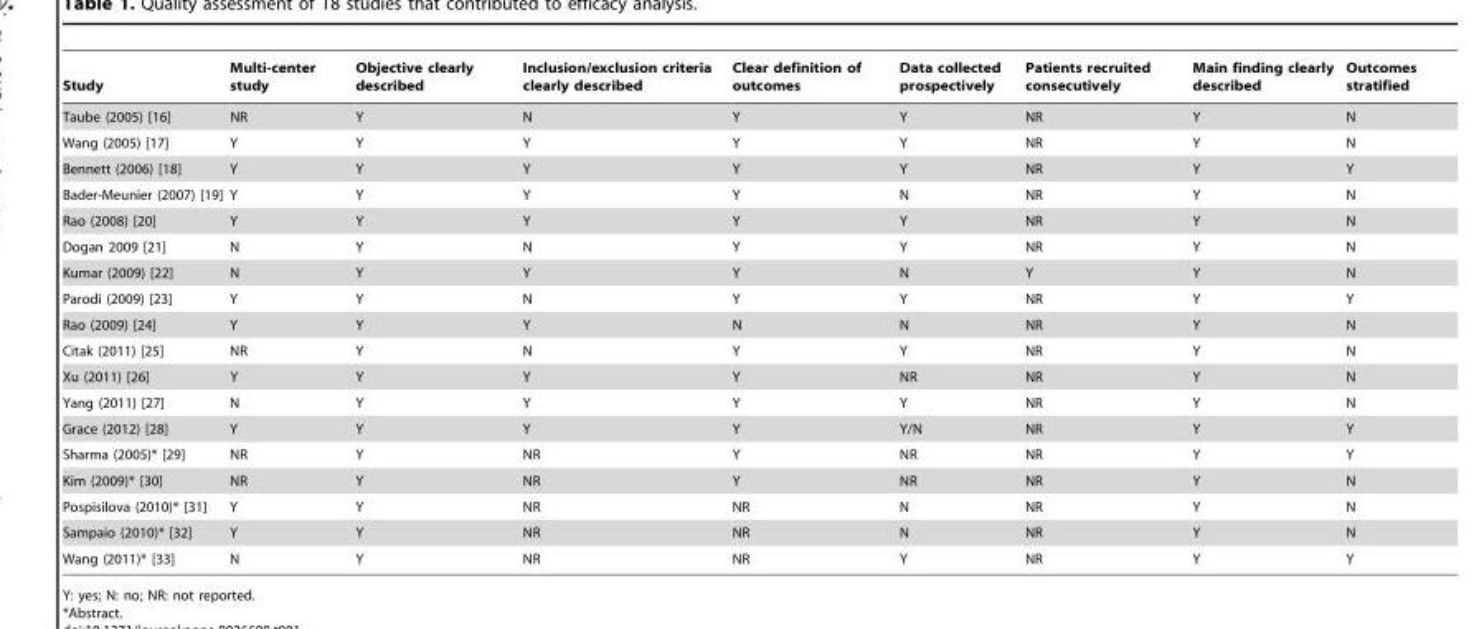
<table><thead><tr><td>Study</td><td>Multi-center study</td><td>Objective clearly described</td><td>Inclusion/exclusion criteria clearly described</td><td>Clear definition of outcomes</td><td>Data collected prospectively</td><td>Patients recruited consecutively</td><td>Main finding clearly described</td><td>Outcomes stratified</td></tr></thead><tbody><tr><td>Taube (2005) [16]</td><td>NR</td><td>Y</td><td>N</td><td>Y</td><td>Y</td><td>NR</td><td>Y</td><td>N</td></tr><tr><td>Wang (2005) [17]</td><td>Y</td><td>Y</td><td>Y</td><td>Y</td><td>Y</td><td>NR</td><td>Y</td><td>N</td></tr><tr><td>Bennett (2006) [18]</td><td>Y</td><td>Y</td><td>Y</td><td>Y</td><td>Y</td><td>NR</td><td>Y</td><td>Y</td></tr><tr><td>Bader-Meunier (2007) [19]</td><td>Y</td><td>Y</td><td>Y</td><td>Y</td><td>N</td><td>NR</td><td>Y</td><td>N</td></tr><tr><td>Rao (2008) [20]</td><td>Y</td><td>Y</td><td>Y</td><td>Y</td><td>Y</td><td>NR</td><td>Y</td><td>N</td></tr><tr><td>Dogan 2009 [21]</td><td>N</td><td>Y</td><td>N</td><td>Y</td><td>Y</td><td>NR</td><td>Y</td><td>N</td></tr><tr><td>Kumar (2009) [22]</td><td>N</td><td>Y</td><td>Y</td><td>Y</td><td>N</td><td>Y</td><td>Y</td><td>N</td></tr><tr><td>Parodi (2009) [23]</td><td>Y</td><td>Y</td><td>N</td><td>Y</td><td>Y</td><td>NR</td><td>Y</td><td>Y</td></tr><tr><td>Rao (2009) [24]</td><td>Y</td><td>Y</td><td>Y</td><td>N</td><td>N</td><td>NR</td><td>Y</td><td>N</td></tr><tr><td>Citak (2011) [25]</td><td>NR</td><td>Y</td><td>N</td><td>Y</td><td>Y</td><td>NR</td><td>Y</td><td>N</td></tr><tr><td>Xu (2011) [26]</td><td>Y</td><td>Y</td><td>Y</td><td>Y</td><td>NR</td><td>NR</td><td>Y</td><td>N</td></tr><tr><td>Yang (2011) [27]</td><td>N</td><td>Y</td><td>Y</td><td>Y</td><td>Y</td><td>NR</td><td>Y</td><td>N</td></tr><tr><td>Grace (2012) [28]</td><td>Y</td><td>Y</td><td>Y</td><td>Y</td><td>Y/N</td><td>NR</td><td>Y</td><td>Y</td></tr><tr><td>Sharma (2005)* [29]</td><td>NR</td><td>Y</td><td>NR</td><td>Y</td><td>NR</td><td>NR</td><td>Y</td><td>Y</td></tr><tr><td>Kim (2009)* [30]</td><td>NR</td><td>Y</td><td>NR</td><td>Y</td><td>NR</td><td>NR</td><td>Y</td><td>N</td></tr><tr><td>Pospisilova (2010)* [31]</td><td>Y</td><td>Y</td><td>NR</td><td>NR</td><td>N</td><td>NR</td><td>Y</td><td>N</td></tr><tr><td>Sampaio (2010)* [32]</td><td>Y</td><td>Y</td><td>NR</td><td>NR</td><td>N</td><td>NR</td><td>Y</td><td>N</td></tr><tr><td>Wang (2011)* [33]</td><td>N</td><td>Y</td><td>NR</td><td>NR</td><td>Y</td><td>NR</td><td>Y</td><td>Y</td></tr></tbody></table>